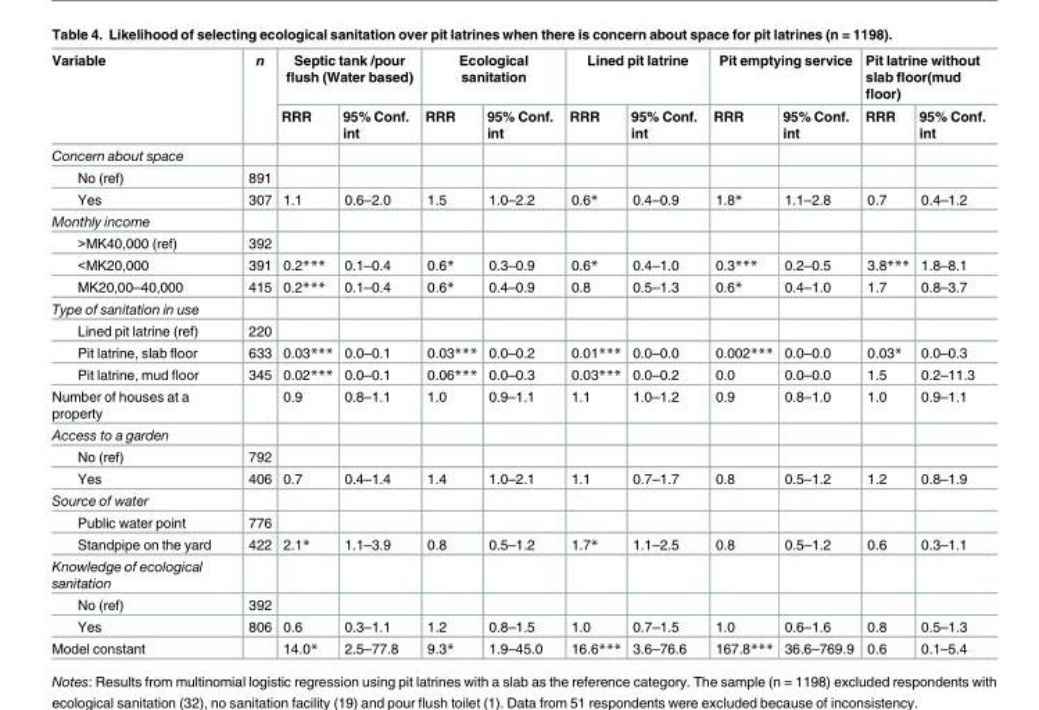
<table><thead><tr><td rowspan="2">Variable</td><td rowspan="2">n</td><td colspan="2">Septic tank /pour flush (Water based)</td><td colspan="2">Ecological sanitation</td><td colspan="2">Lined pit latrine</td><td colspan="2">Pit emptying service</td><td colspan="2">Pit latrine without slab floor(mud floor)</td></tr><tr><td>RRR</td><td>95% Conf. int</td><td>RRR</td><td>95% Conf. int</td><td>RRR</td><td>95% Conf. int</td><td>RRR</td><td>95% Conf. int</td><td>RRR</td><td>95% Conf. int</td></tr></thead><tbody><tr><td colspan="12">Concern about space</td></tr><tr><td>No (ref)</td><td>891</td><td></td><td></td><td></td><td></td><td></td><td></td><td></td><td></td><td></td><td></td></tr><tr><td>Yes</td><td>307</td><td>1.1</td><td>0.6–2.0</td><td>1.5</td><td>1.0–2.2</td><td>0.6*</td><td>0.4–0.9</td><td>1.8*</td><td>1.1–2.8</td><td>0.7</td><td>0.4–1.2</td></tr><tr><td colspan="12">Monthly income</td></tr><tr><td>&gt;MK40,000 (ref)</td><td>392</td><td></td><td></td><td></td><td></td><td></td><td></td><td></td><td></td><td></td><td></td></tr><tr><td>&lt;MK20,000</td><td>391</td><td>0.2***</td><td>0.1–0.4</td><td>0.6*</td><td>0.3–0.9</td><td>0.6*</td><td>0.4–1.0</td><td>0.3***</td><td>0.2–0.5</td><td>3.8***</td><td>1.8–8.1</td></tr><tr><td>MK20,00–40,000</td><td>415</td><td>0.2***</td><td>0.1–0.4</td><td>0.6*</td><td>0.4–0.9</td><td>0.8</td><td>0.5–1.3</td><td>0.6*</td><td>0.4–1.0</td><td>1.7</td><td>0.8–3.7</td></tr><tr><td colspan="12">Type of sanitation in use</td></tr><tr><td>Lined pit latrine (ref)</td><td>220</td><td></td><td></td><td></td><td></td><td></td><td></td><td></td><td></td><td></td><td></td></tr><tr><td>Pit latrine, slab floor</td><td>633</td><td>0.03***</td><td>0.0–0.1</td><td>0.03***</td><td>0.0–0.2</td><td>0.01***</td><td>0.0–0.0</td><td>0.002***</td><td>0.0–0.0</td><td>0.03*</td><td>0.0–0.3</td></tr><tr><td>Pit latrine, mud floor</td><td>345</td><td>0.02***</td><td>0.0–0.1</td><td>0.06***</td><td>0.0–0.3</td><td>0.03***</td><td>0.0–0.2</td><td>0.0</td><td>0.0–0.0</td><td>1.5</td><td>0.2–11.3</td></tr><tr><td>Number of houses at a property</td><td></td><td>0.9</td><td>0.8–1.1</td><td>1.0</td><td>0.9–1.1</td><td>1.1</td><td>1.0–1.2</td><td>0.9</td><td>0.8–1.0</td><td>1.0</td><td>0.9–1.1</td></tr><tr><td colspan="12">Access to a garden</td></tr><tr><td>No (ref)</td><td>792</td><td></td><td></td><td></td><td></td><td></td><td></td><td></td><td></td><td></td><td></td></tr><tr><td>Yes</td><td>406</td><td>0.7</td><td>0.4–1.4</td><td>1.4</td><td>1.0–2.1</td><td>1.1</td><td>0.7–1.7</td><td>0.8</td><td>0.5–1.2</td><td>1.2</td><td>0.8–1.9</td></tr><tr><td colspan="12">Source of water</td></tr><tr><td>Public water point</td><td>776</td><td></td><td></td><td></td><td></td><td></td><td></td><td></td><td></td><td></td><td></td></tr><tr><td>Standpipe on the yard</td><td>422</td><td>2.1*</td><td>1.1–3.9</td><td>0.8</td><td>0.5–1.2</td><td>1.7*</td><td>1.1–2.5</td><td>0.8</td><td>0.5–1.2</td><td>0.6</td><td>0.3–1.1</td></tr><tr><td colspan="12">Knowledge of ecological sanitation</td></tr><tr><td>No (ref)</td><td>392</td><td></td><td></td><td></td><td></td><td></td><td></td><td></td><td></td><td></td><td></td></tr><tr><td>Yes</td><td>806</td><td>0.6</td><td>0.3–1.1</td><td>1.2</td><td>0.8–1.5</td><td>1.0</td><td>0.7–1.5</td><td>1.0</td><td>0.6–1.6</td><td>0.8</td><td>0.5–1.3</td></tr><tr><td>Model constant</td><td></td><td>14.0*</td><td>2.5–77.8</td><td>9.3*</td><td>1.9–45.0</td><td>16.6***</td><td>3.6–76.6</td><td>167.8***</td><td>36.6–769.9</td><td>0.6</td><td>0.1–5.4</td></tr></tbody></table>